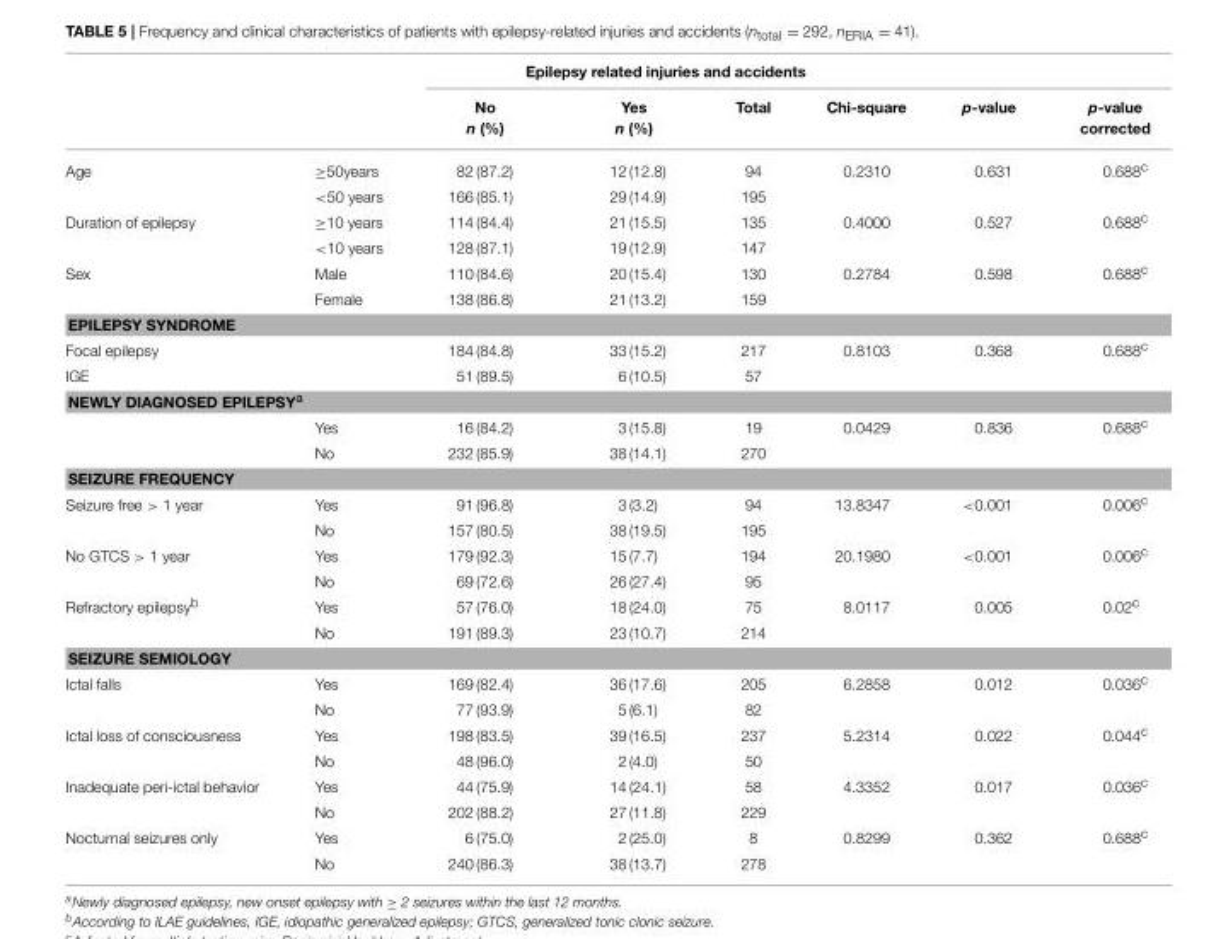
<table><thead><tr><td rowspan="2"></td><td rowspan="2"></td><td colspan="6">Epilepsy related injuries and accidents</td></tr><tr><td>No n (%)</td><td>Yes n (%)</td><td>Total</td><td>Chi-square</td><td>p-value</td><td>p-value corrected</td></tr></thead><tbody><tr><td rowspan="2">Age</td><td>≥50years</td><td>82 (87.2)</td><td>12 (12.8)</td><td>94</td><td>0.2310</td><td>0.631</td><td>0.688<sup>c</sup></td></tr><tr><td>&lt;50 years</td><td>166 (85.1)</td><td>29 (14.9)</td><td>195</td><td></td><td></td><td></td></tr><tr><td rowspan="2">Duration of epilepsy</td><td>≥10 years</td><td>114 (84.4)</td><td>21 (15.5)</td><td>135</td><td>0.4000</td><td>0.527</td><td>0.688<sup>c</sup></td></tr><tr><td>&lt;10 years</td><td>128 (87.1)</td><td>19 (12.9)</td><td>147</td><td></td><td></td><td></td></tr><tr><td rowspan="2">Sex</td><td>Male</td><td>110 (84.6)</td><td>20 (15.4)</td><td>130</td><td>0.2784</td><td>0.598</td><td>0.688<sup>c</sup></td></tr><tr><td>Female</td><td>138 (86.8)</td><td>21 (13.2)</td><td>159</td><td></td><td></td><td></td></tr><tr><td colspan="8">EPILEPSY SYNDROME</td></tr><tr><td>Focal epilepsy</td><td></td><td>184 (84.8)</td><td>33 (15.2)</td><td>217</td><td>0.8103</td><td>0.368</td><td>0.688<sup>c</sup></td></tr><tr><td>IGE</td><td></td><td>51 (89.5)</td><td>6 (10.5)</td><td>57</td><td></td><td></td><td></td></tr><tr><td colspan="8">NEWLY DIAGNOSED EPILEPSY<sup>a</sup></td></tr><tr><td></td><td>Yes</td><td>16 (84.2)</td><td>3 (15.8)</td><td>19</td><td>0.0429</td><td>0.836</td><td>0.688<sup>c</sup></td></tr><tr><td></td><td>No</td><td>232 (85.9)</td><td>38 (14.1)</td><td>270</td><td></td><td></td><td></td></tr><tr><td colspan="8">SEIZURE FREQUENCY</td></tr><tr><td rowspan="2">Seizure free &gt; 1 year</td><td>Yes</td><td>91 (96.8)</td><td>3 (3.2)</td><td>94</td><td>13.8347</td><td>&lt;0.001</td><td>0.006<sup>c</sup></td></tr><tr><td>No</td><td>157 (80.5)</td><td>38 (19.5)</td><td>195</td><td></td><td></td><td></td></tr><tr><td rowspan="2">No GTCS &gt; 1 year</td><td>Yes</td><td>179 (92.3)</td><td>15 (7.7)</td><td>194</td><td>20.1980</td><td>&lt;0.001</td><td>0.006<sup>c</sup></td></tr><tr><td>No</td><td>69 (72.6)</td><td>26 (27.4)</td><td>95</td><td></td><td></td><td></td></tr><tr><td rowspan="2">Refractory epilepsy<sup>b</sup></td><td>Yes</td><td>57 (76.0)</td><td>18 (24.0)</td><td>75</td><td>8.0117</td><td>0.005</td><td>0.02<sup>c</sup></td></tr><tr><td>No</td><td>191 (89.3)</td><td>23 (10.7)</td><td>214</td><td></td><td></td><td></td></tr><tr><td colspan="8">SEIZURE SEMIOLOGY</td></tr><tr><td rowspan="2">Ictal falls</td><td>Yes</td><td>169 (82.4)</td><td>36 (17.6)</td><td>205</td><td>6.2858</td><td>0.012</td><td>0.036<sup>c</sup></td></tr><tr><td>No</td><td>77 (93.9)</td><td>5 (6.1)</td><td>82</td><td></td><td></td><td></td></tr><tr><td rowspan="2">Ictal loss of consciousness</td><td>Yes</td><td>198 (83.5)</td><td>39 (16.5)</td><td>237</td><td>5.2314</td><td>0.022</td><td>0.044<sup>c</sup></td></tr><tr><td>No</td><td>48 (96.0)</td><td>2 (4.0)</td><td>50</td><td></td><td></td><td></td></tr><tr><td rowspan="2">Inadequate peri-ictal behavior</td><td>Yes</td><td>44 (75.9)</td><td>14 (24.1)</td><td>58</td><td>4.3352</td><td>0.017</td><td>0.036<sup>c</sup></td></tr><tr><td>No</td><td>202 (88.2)</td><td>27 (11.8)</td><td>229</td><td></td><td></td><td></td></tr><tr><td rowspan="2">Nocturnal seizures only</td><td>Yes</td><td>6 (75.0)</td><td>2 (25.0)</td><td>8</td><td>0.8299</td><td>0.362</td><td>0.688<sup>c</sup></td></tr><tr><td>No</td><td>240 (86.3)</td><td>38 (13.7)</td><td>278</td><td></td><td></td><td></td></tr></tbody></table>